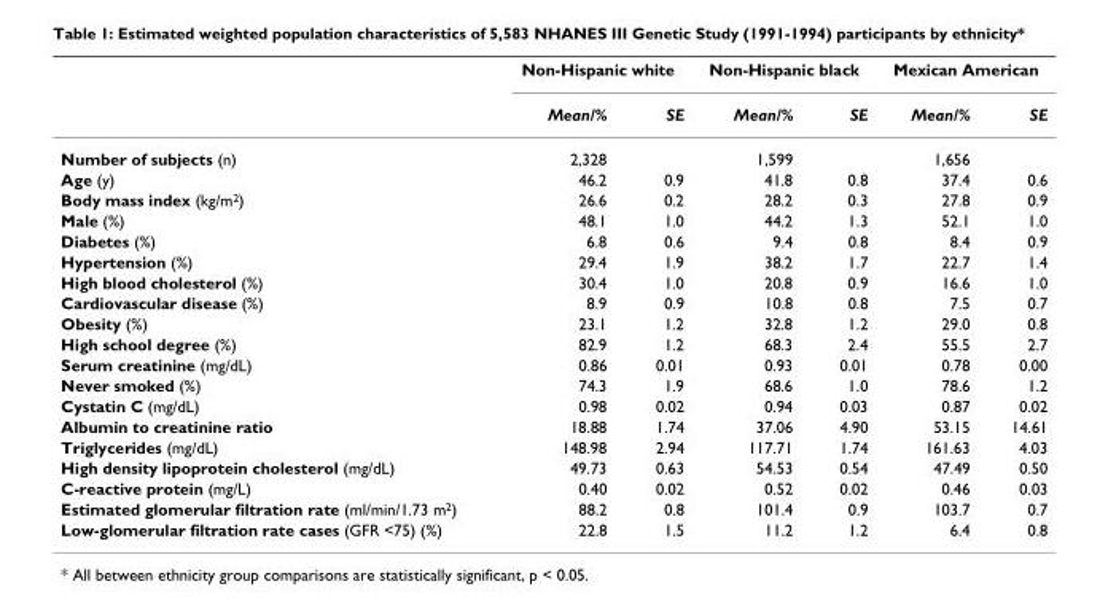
<table><thead><tr><td rowspan="2"></td><td colspan="2">Non-Hispanic white</td><td colspan="2">Non-Hispanic black</td><td colspan="2">Mexican American</td></tr><tr><td>Mean/%</td><td>SE</td><td>Mean/%</td><td>SE</td><td>Mean/%</td><td>SE</td></tr></thead><tbody><tr><td>Number of subjects (n)</td><td>2,328</td><td></td><td>1,599</td><td></td><td>1,656</td><td></td></tr><tr><td>Age (y)</td><td>46.2</td><td>0.9</td><td>41.8</td><td>0.8</td><td>37.4</td><td>0.6</td></tr><tr><td>Body mass index (kg/m<sup>2</sup>)</td><td>26.6</td><td>0.2</td><td>28.2</td><td>0.3</td><td>27.8</td><td>0.9</td></tr><tr><td>Male (%)</td><td>48.1</td><td>1.0</td><td>44.2</td><td>1.3</td><td>52.1</td><td>1.0</td></tr><tr><td>Diabetes (%)</td><td>6.8</td><td>0.6</td><td>9.4</td><td>0.8</td><td>8.4</td><td>0.9</td></tr><tr><td>Hypertension (%)</td><td>29.4</td><td>1.9</td><td>38.2</td><td>1.7</td><td>22.7</td><td>1.4</td></tr><tr><td>High blood cholesterol (%)</td><td>30.4</td><td>1.0</td><td>20.8</td><td>0.9</td><td>16.6</td><td>1.0</td></tr><tr><td>Cardiovascular disease (%)</td><td>8.9</td><td>0.9</td><td>10.8</td><td>0.8</td><td>7.5</td><td>0.7</td></tr><tr><td>Obesity (%)</td><td>23.1</td><td>1.2</td><td>32.8</td><td>1.2</td><td>29.0</td><td>0.8</td></tr><tr><td>High school degree (%)</td><td>82.9</td><td>1.2</td><td>68.3</td><td>2.4</td><td>55.5</td><td>2.7</td></tr><tr><td>Serum creatinine (mg/dL)</td><td>0.86</td><td>0.01</td><td>0.93</td><td>0.01</td><td>0.78</td><td>0.00</td></tr><tr><td>Never smoked (%)</td><td>74.3</td><td>1.9</td><td>68.6</td><td>1.0</td><td>78.6</td><td>1.2</td></tr><tr><td>Cystatin C (mg/dL)</td><td>0.98</td><td>0.02</td><td>0.94</td><td>0.03</td><td>0.87</td><td>0.02</td></tr><tr><td>Albumin to creatinine ratio</td><td>18.88</td><td>1.74</td><td>37.06</td><td>4.90</td><td>53.15</td><td>14.61</td></tr><tr><td>Triglycerides (mg/dL)</td><td>148.98</td><td>2.94</td><td>117.71</td><td>1.74</td><td>161.63</td><td>4.03</td></tr><tr><td>High density lipoprotein cholesterol (mg/dL)</td><td>49.73</td><td>0.63</td><td>54.53</td><td>0.54</td><td>47.49</td><td>0.50</td></tr><tr><td>C-reactive protein (mg/L)</td><td>0.40</td><td>0.02</td><td>0.52</td><td>0.02</td><td>0.46</td><td>0.03</td></tr><tr><td>Estimated glomerular filtration rate (ml/min/1.73 m<sup>2</sup>)</td><td>88.2</td><td>0.8</td><td>101.4</td><td>0.9</td><td>103.7</td><td>0.7</td></tr><tr><td>Low-glomerular filtration rate cases (GFR &lt;75) (%)</td><td>22.8</td><td>1.5</td><td>11.2</td><td>1.2</td><td>6.4</td><td>0.8</td></tr></tbody></table>